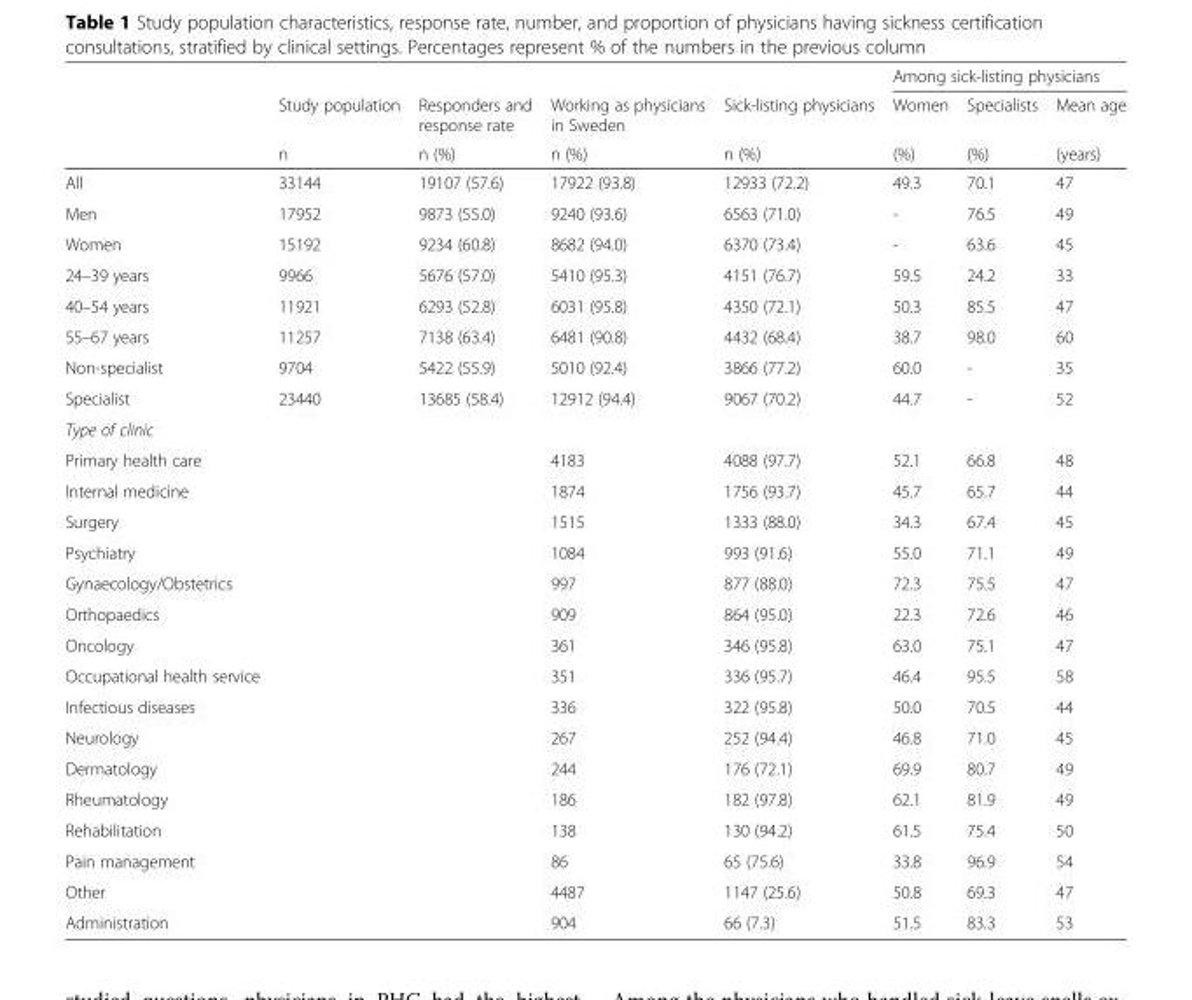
<table><thead><tr><td rowspan="3"></td><td rowspan="3">Study population n</td><td rowspan="3">Responders and response rate n (%)</td><td rowspan="3">Working as physicians in Sweden n (%)</td><td rowspan="3">Sick-listing physicians n (%)</td><td colspan="3">Among sick-listing physicians</td></tr><tr><td rowspan="2">Women (%)</td><td rowspan="2">Specialists (%)</td><td rowspan="2">Mean age (years)</td></tr><tr></tr></thead><tbody><tr><td>All</td><td>33144</td><td>19107 (57.6)</td><td>17922 (93.8)</td><td>12933 (72.2)</td><td>49.3</td><td>70.1</td><td>47</td></tr><tr><td>Men</td><td>17952</td><td>9873 (55.0)</td><td>9240 (93.6)</td><td>6563 (71.0)</td><td>-</td><td>76.5</td><td>49</td></tr><tr><td>Women</td><td>15192</td><td>9234 (60.8)</td><td>8682 (94.0)</td><td>6370 (73.4)</td><td>-</td><td>63.6</td><td>45</td></tr><tr><td>24–39 years</td><td>9966</td><td>5676 (57.0)</td><td>5410 (95.3)</td><td>4151 (76.7)</td><td>59.5</td><td>24.2</td><td>33</td></tr><tr><td>40–54 years</td><td>11921</td><td>6293 (52.8)</td><td>6031 (95.8)</td><td>4350 (72.1)</td><td>50.3</td><td>85.5</td><td>47</td></tr><tr><td>55–67 years</td><td>11257</td><td>7138 (63.4)</td><td>6481 (90.8)</td><td>4432 (68.4)</td><td>38.7</td><td>98.0</td><td>60</td></tr><tr><td>Non-specialist</td><td>9704</td><td>5422 (55.9)</td><td>5010 (92.4)</td><td>3866 (77.2)</td><td>60.0</td><td>-</td><td>35</td></tr><tr><td>Specialist</td><td>23440</td><td>13685 (58.4)</td><td>12912 (94.4)</td><td>9067 (70.2)</td><td>44.7</td><td>-</td><td>52</td></tr><tr><td colspan="8">Type of clinic</td></tr><tr><td>Primary health care</td><td></td><td></td><td>4183</td><td>4088 (97.7)</td><td>52.1</td><td>66.8</td><td>48</td></tr><tr><td>Internal medicine</td><td></td><td></td><td>1874</td><td>1756 (93.7)</td><td>45.7</td><td>65.7</td><td>44</td></tr><tr><td>Surgery</td><td></td><td></td><td>1515</td><td>1333 (88.0)</td><td>34.3</td><td>67.4</td><td>45</td></tr><tr><td>Psychiatry</td><td></td><td></td><td>1084</td><td>993 (91.6)</td><td>55.0</td><td>71.1</td><td>49</td></tr><tr><td>Gynaecology/Obstetrics</td><td></td><td></td><td>997</td><td>877 (88.0)</td><td>72.3</td><td>75.5</td><td>47</td></tr><tr><td>Orthopaedics</td><td></td><td></td><td>909</td><td>864 (95.0)</td><td>22.3</td><td>72.6</td><td>46</td></tr><tr><td>Oncology</td><td></td><td></td><td>361</td><td>346 (95.8)</td><td>63.0</td><td>75.1</td><td>47</td></tr><tr><td>Occupational health service</td><td></td><td></td><td>351</td><td>336 (95.7)</td><td>46.4</td><td>95.5</td><td>58</td></tr><tr><td>Infectious diseases</td><td></td><td></td><td>336</td><td>322 (95.8)</td><td>50.0</td><td>70.5</td><td>44</td></tr><tr><td>Neurology</td><td></td><td></td><td>267</td><td>252 (94.4)</td><td>46.8</td><td>71.0</td><td>45</td></tr><tr><td>Dermatology</td><td></td><td></td><td>244</td><td>176 (72.1)</td><td>69.9</td><td>80.7</td><td>49</td></tr><tr><td>Rheumatology</td><td></td><td></td><td>186</td><td>182 (97.8)</td><td>62.1</td><td>81.9</td><td>49</td></tr><tr><td>Rehabilitation</td><td></td><td></td><td>138</td><td>130 (94.2)</td><td>61.5</td><td>75.4</td><td>50</td></tr><tr><td>Pain management</td><td></td><td></td><td>86</td><td>65 (75.6)</td><td>33.8</td><td>96.9</td><td>54</td></tr><tr><td>Other</td><td></td><td></td><td>4487</td><td>1147 (25.6)</td><td>50.8</td><td>69.3</td><td>47</td></tr><tr><td>Administration</td><td></td><td></td><td>904</td><td>66 (7.3)</td><td>51.5</td><td>83.3</td><td>53</td></tr></tbody></table>